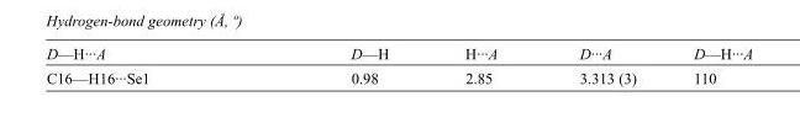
<table><tbody><tr><td>D—H···A</td><td>D—H</td><td>H···A</td><td>D···A</td><td>D—H···A</td></tr><tr><td>C16—H16···Se1</td><td>0.98</td><td>2.85</td><td>3.313 (3)</td><td>110</td></tr></tbody></table>